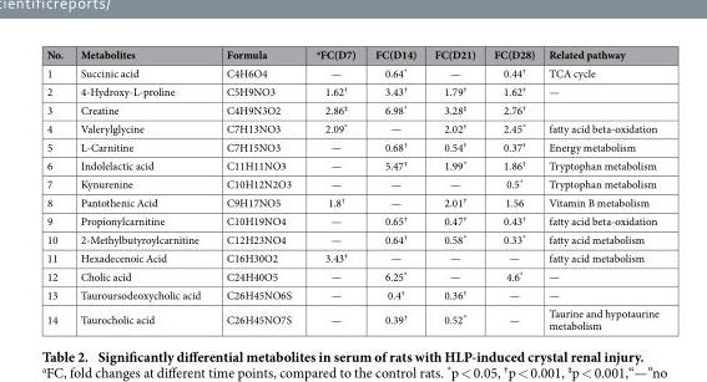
<table><thead><tr><td>No.</td><td>Metabolites</td><td>Formula</td><td><sup>a</sup>FC(D7)</td><td>FC(D14)</td><td>FC(D21)</td><td>FC(D28)</td><td>Related pathway</td></tr></thead><tbody><tr><td>1</td><td>Succinic acid</td><td>C4H6O4</td><td>—</td><td>0.64*</td><td>—</td><td>0.44<sup>†</sup></td><td>TCA cycle</td></tr><tr><td>2</td><td>4-Hydroxy-L-proline</td><td>C5H9NO3</td><td>1.62<sup>†</sup></td><td>3.43<sup>†</sup></td><td>1.79<sup>†</sup></td><td>1.62<sup>†</sup></td><td>—</td></tr><tr><td>3</td><td>Creatine</td><td>C4H9N3O2</td><td>2.86<sup>‡</sup></td><td>6.98*</td><td>3.28<sup>‡</sup></td><td>2.76<sup>†</sup></td><td></td></tr><tr><td>4</td><td>Valerylglycine</td><td>C7H13NO3</td><td>2.09*</td><td>—</td><td>2.02<sup>†</sup></td><td>2.45*</td><td>fatty acid beta-oxidation</td></tr><tr><td>5</td><td>L-Carnitine</td><td>C7H15NO3</td><td>—</td><td>0.68<sup>†</sup></td><td>0.54<sup>†</sup></td><td>0.37<sup>†</sup></td><td>Energy metabolism</td></tr><tr><td>6</td><td>Indolelactic acid</td><td>C11H11NO3</td><td>—</td><td>5.47<sup>†</sup></td><td>1.99*</td><td>1.86<sup>†</sup></td><td>Tryptophan metabolism</td></tr><tr><td>7</td><td>Kynurenine</td><td>C10H12N2O3</td><td>—</td><td>—</td><td>—</td><td>0.5*</td><td>Tryptophan metabolism</td></tr><tr><td>8</td><td>Pantothenic Acid</td><td>C9H17NO5</td><td>1.8<sup>†</sup></td><td>—</td><td>2.01<sup>†</sup></td><td>1.56</td><td>Vitamin B metabolism</td></tr><tr><td>9</td><td>Propionylcarnitine</td><td>C10H19NO4</td><td>—</td><td>0.65<sup>†</sup></td><td>0.47<sup>†</sup></td><td>0.43<sup>†</sup></td><td>fatty acid beta-oxidation</td></tr><tr><td>10</td><td>2-Methylbutyroylcarnitine</td><td>C12H23NO4</td><td>—</td><td>0.64<sup>†</sup></td><td>0.58*</td><td>0.33*</td><td>fatty acid metabolism</td></tr><tr><td>11</td><td>Hexadecenoic Acid</td><td>C16H30O2</td><td>3.43<sup>†</sup></td><td>—</td><td>—</td><td>—</td><td>fatty acid metabolism</td></tr><tr><td>12</td><td>Cholic acid</td><td>C24H40O5</td><td>—</td><td>6.25*</td><td>—</td><td>4.6*</td><td>—</td></tr><tr><td>13</td><td>Tauroursodeoxycholic acid</td><td>C26H45NO6S</td><td>—</td><td>0.4<sup>†</sup></td><td>0.36<sup>†</sup></td><td>—</td><td>—</td></tr><tr><td>14</td><td>Taurocholic acid</td><td>C26H45NO7S</td><td>—</td><td>0.39<sup>†</sup></td><td>0.52*</td><td>—</td><td>Taurine and hypotaurine metabolism</td></tr></tbody></table>